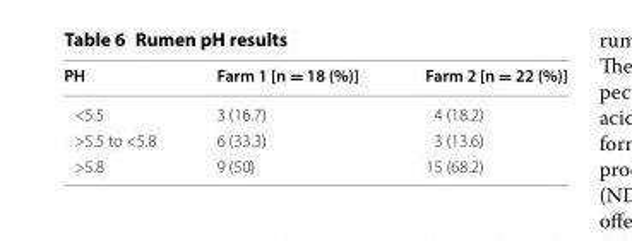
<table><thead><tr><td>PH</td><td>Farm 1 [n = 18 (%)]</td><td>Farm 2 [n = 22 (%)]</td></tr></thead><tbody><tr><td>&lt;5.5</td><td>3 (16.7)</td><td>4 (18.2)</td></tr><tr><td>&gt;5.5 to &lt;5.8</td><td>6 (33.3)</td><td>3 (13.6)</td></tr><tr><td>&gt;5.8</td><td>9 (50)</td><td>15 (68.2)</td></tr></tbody></table>